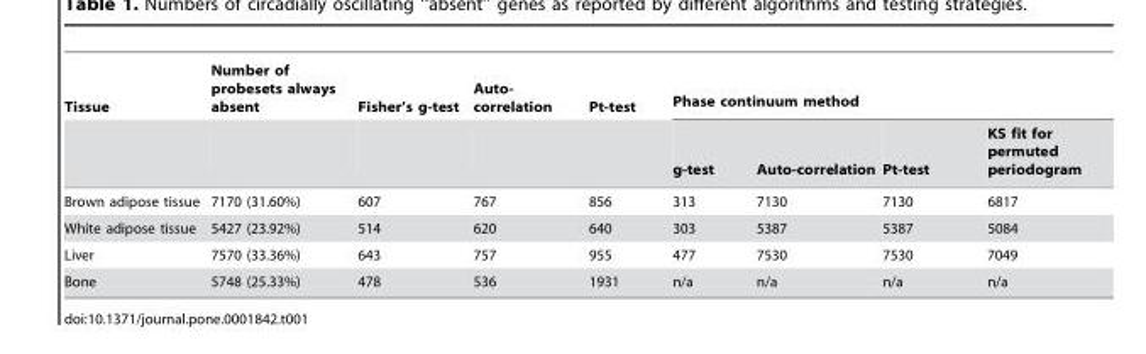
<table><thead><tr><td rowspan="2">Tissue</td><td rowspan="2">Number of probesets always absent</td><td rowspan="2">Fisher’s g-test</td><td rowspan="2">Auto- correlation</td><td rowspan="2">Pt-test</td><td colspan="4">Phase continuum method</td></tr><tr><td>g-test</td><td>Auto-correlation</td><td>Pt-test</td><td>KS fit for permuted periodogram</td></tr></thead><tbody><tr><td>Brown adipose tissue</td><td>7170 (31.60%)</td><td>607</td><td>767</td><td>856</td><td>313</td><td>7130</td><td>7130</td><td>6817</td></tr><tr><td>White adipose tissue</td><td>5427 (23.92%)</td><td>514</td><td>620</td><td>640</td><td>303</td><td>5387</td><td>5387</td><td>5084</td></tr><tr><td>Liver</td><td>7570 (33.36%)</td><td>643</td><td>757</td><td>955</td><td>477</td><td>7530</td><td>7530</td><td>7049</td></tr><tr><td>Bone</td><td>5748 (25.33%)</td><td>478</td><td>536</td><td>1931</td><td>n/a</td><td>n/a</td><td>n/a</td><td>n/a</td></tr></tbody></table>